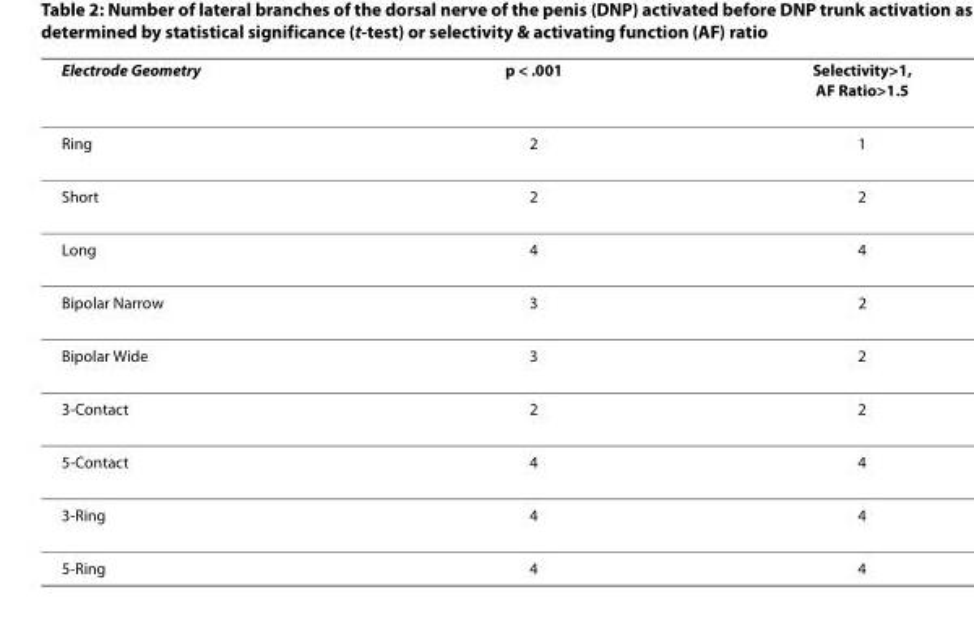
<table><thead><tr><td>Electrode Geometry</td><td>p &lt; .001</td><td>Selectivity&gt;1, AF Ratio&gt;1.5</td></tr></thead><tbody><tr><td>Ring</td><td>2</td><td>1</td></tr><tr><td>Short</td><td>2</td><td>2</td></tr><tr><td>Long</td><td>4</td><td>4</td></tr><tr><td>Bipolar Narrow</td><td>3</td><td>2</td></tr><tr><td>Bipolar Wide</td><td>3</td><td>2</td></tr><tr><td>3-Contact</td><td>2</td><td>2</td></tr><tr><td>5-Contact</td><td>4</td><td>4</td></tr><tr><td>3-Ring</td><td>4</td><td>4</td></tr><tr><td>5-Ring</td><td>4</td><td>4</td></tr></tbody></table>